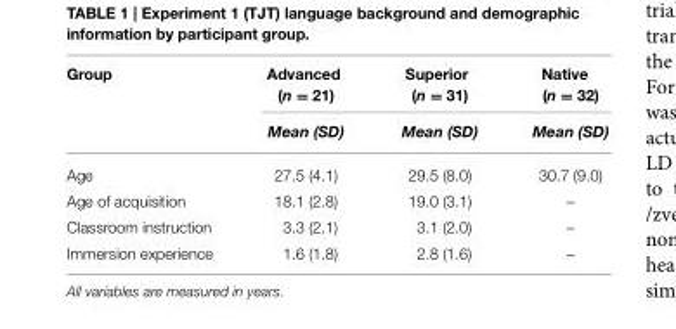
<table><thead><tr><td rowspan="2">Group</td><td rowspan="2">Advanced (n = 21) Mean (SD)</td><td rowspan="2">Superior (n = 31) Mean (SD)</td><td rowspan="2">Native (n = 32) Mean (SD)</td></tr><tr></tr></thead><tbody><tr><td>Age</td><td>27.5 (4.1)</td><td>29.5 (8.0)</td><td>30.7 (9.0)</td></tr><tr><td>Age of acquisition</td><td>18.1 (2.8)</td><td>19.0 (3.1)</td><td>–</td></tr><tr><td>Classroom instruction</td><td>3.3 (2.1)</td><td>3.1 (2.0)</td><td>–</td></tr><tr><td>Immersion experience</td><td>1.6 (1.8)</td><td>2.8 (1.6)</td><td>–</td></tr></tbody></table>